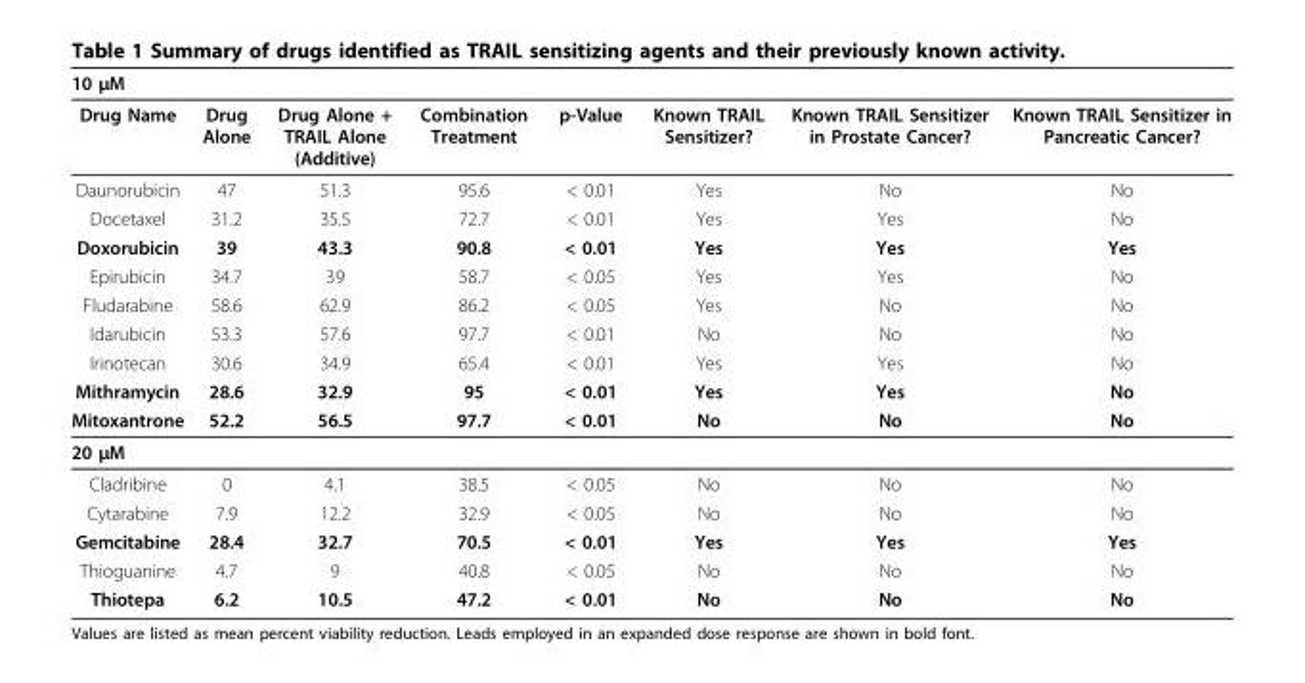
<table><thead><tr><td colspan="8">10 μM</td></tr><tr><td>Drug Name</td><td>Drug Alone</td><td>Drug Alone + TRAIL Alone (Additive)</td><td>Combination Treatment</td><td>p-Value</td><td>Known TRAIL Sensitizer?</td><td>Known TRAIL Sensitizer in Prostate Cancer?</td><td>Known TRAIL Sensitizer in Pancreatic Cancer?</td></tr></thead><tbody><tr><td>Daunorubicin</td><td>47</td><td>51.3</td><td>95.6</td><td>&lt; 0.01</td><td>Yes</td><td>No</td><td>No</td></tr><tr><td>Docetaxel</td><td>31.2</td><td>35.5</td><td>72.7</td><td>&lt; 0.01</td><td>Yes</td><td>Yes</td><td>No</td></tr><tr><td>Doxorubicin</td><td>39</td><td>43.3</td><td>90.8</td><td>&lt; 0.01</td><td>Yes</td><td>Yes</td><td>Yes</td></tr><tr><td>Epirubicin</td><td>34.7</td><td>39</td><td>58.7</td><td>&lt; 0.05</td><td>Yes</td><td>Yes</td><td>No</td></tr><tr><td>Fludarabine</td><td>58.6</td><td>62.9</td><td>86.2</td><td>&lt; 0.05</td><td>Yes</td><td>No</td><td>No</td></tr><tr><td>Idarubicin</td><td>53.3</td><td>57.6</td><td>97.7</td><td>&lt; 0.01</td><td>No</td><td>No</td><td>No</td></tr><tr><td>Irinotecan</td><td>30.6</td><td>34.9</td><td>65.4</td><td>&lt; 0.01</td><td>Yes</td><td>Yes</td><td>No</td></tr><tr><td>Mithramycin</td><td>28.6</td><td>32.9</td><td>95</td><td>&lt; 0.01</td><td>Yes</td><td>Yes</td><td>No</td></tr><tr><td>Mitoxantrone</td><td>52.2</td><td>56.5</td><td>97.7</td><td>&lt; 0.01</td><td>No</td><td>No</td><td>No</td></tr><tr><td colspan="8">20 μM</td></tr><tr><td>Cladribine</td><td>0</td><td>4.1</td><td>38.5</td><td>&lt; 0.05</td><td>No</td><td>No</td><td>No</td></tr><tr><td>Cytarabine</td><td>7.9</td><td>12.2</td><td>32.9</td><td>&lt; 0.05</td><td>No</td><td>No</td><td>No</td></tr><tr><td>Gemcitabine</td><td>28.4</td><td>32.7</td><td>70.5</td><td>&lt; 0.01</td><td>Yes</td><td>Yes</td><td>Yes</td></tr><tr><td>Thioguanine</td><td>4.7</td><td>9</td><td>40.8</td><td>&lt; 0.05</td><td>No</td><td>No</td><td>No</td></tr><tr><td>Thiotepa</td><td>6.2</td><td>10.5</td><td>47.2</td><td>&lt; 0.01</td><td>No</td><td>No</td><td>No</td></tr></tbody></table>